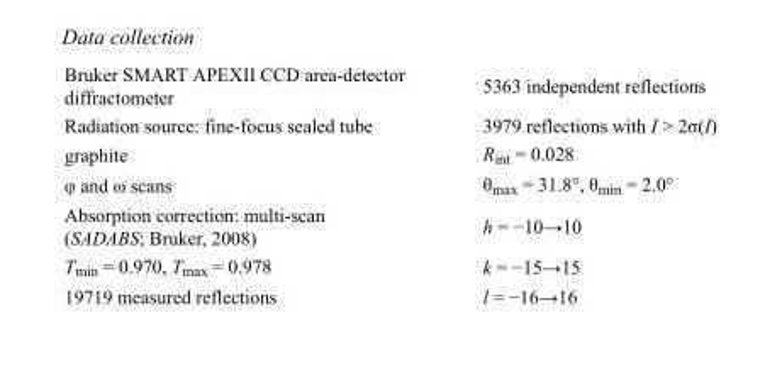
<table><tbody><tr><td>Bruker SMART APEXII CCD area-detector diffractometer</td><td>5363 independent reflections</td></tr><tr><td>Radiation source: fine-focus sealed tube</td><td>3979 reflections with I &gt; 2σ(I)</td></tr><tr><td>graphite</td><td>R<sub>int</sub> = 0.028</td></tr><tr><td>φ and ω scans</td><td>θ<sub>max</sub> = 31.8°, θ<sub>min</sub> = 2.0°</td></tr><tr><td>Absorption correction: multi-scan (SADABS; Bruker, 2008)</td><td>h = −10→10</td></tr><tr><td>T<sub>min</sub> = 0.970, T<sub>max</sub> = 0.978</td><td>k = −15→15</td></tr><tr><td>19719 measured reflections</td><td>l = −16→16</td></tr></tbody></table>